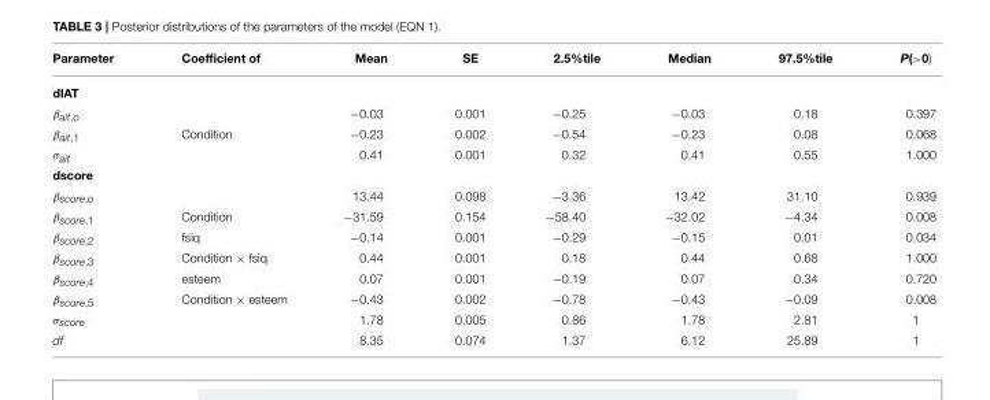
<table><thead><tr><td>Parameter</td><td>Coefficient of</td><td>Mean</td><td>SE</td><td>2.5%tile</td><td>Median</td><td>97.5%tile</td><td>P(&gt;0)</td></tr></thead><tbody><tr><td colspan="8">dIAT</td></tr><tr><td>β<sub>ait,o</sub></td><td></td><td>−0.03</td><td>0.001</td><td>−0.25</td><td>−0.03</td><td>0.18</td><td>0.397</td></tr><tr><td>β<sub>ait,1</sub></td><td>Condition</td><td>−0.23</td><td>0.002</td><td>−0.54</td><td>−0.23</td><td>0.08</td><td>0.068</td></tr><tr><td>σ<sub>ait</sub></td><td></td><td>0.41</td><td>0.001</td><td>0.32</td><td>0.41</td><td>0.55</td><td>1.000</td></tr><tr><td colspan="8">dscore</td></tr><tr><td>β<sub>score,o</sub></td><td></td><td>13.44</td><td>0.098</td><td>−3.36</td><td>13.42</td><td>31.10</td><td>0.939</td></tr><tr><td>β<sub>score,1</sub></td><td>Condition</td><td>−31.59</td><td>0.154</td><td>−58.40</td><td>−32.02</td><td>−4.34</td><td>0.008</td></tr><tr><td>β<sub>score,2</sub></td><td>fsiq</td><td>−0.14</td><td>0.001</td><td>−0.29</td><td>−0.15</td><td>0.01</td><td>0.034</td></tr><tr><td>β<sub>score,3</sub></td><td>Condition × fsiq</td><td>0.44</td><td>0.001</td><td>0.18</td><td>0.44</td><td>0.68</td><td>1.000</td></tr><tr><td>β<sub>score,4</sub></td><td>esteem</td><td>0.07</td><td>0.001</td><td>−0.19</td><td>0.07</td><td>0.34</td><td>0.720</td></tr><tr><td>β<sub>score,5</sub></td><td>Condition × esteem</td><td>−0.43</td><td>0.002</td><td>−0.78</td><td>−0.43</td><td>−0.09</td><td>0.008</td></tr><tr><td>σ<sub>score</sub></td><td></td><td>1.78</td><td>0.005</td><td>0.86</td><td>1.78</td><td>2.81</td><td>1</td></tr><tr><td>df</td><td></td><td>8.35</td><td>0.074</td><td>1.37</td><td>6.12</td><td>25.89</td><td>1</td></tr></tbody></table>